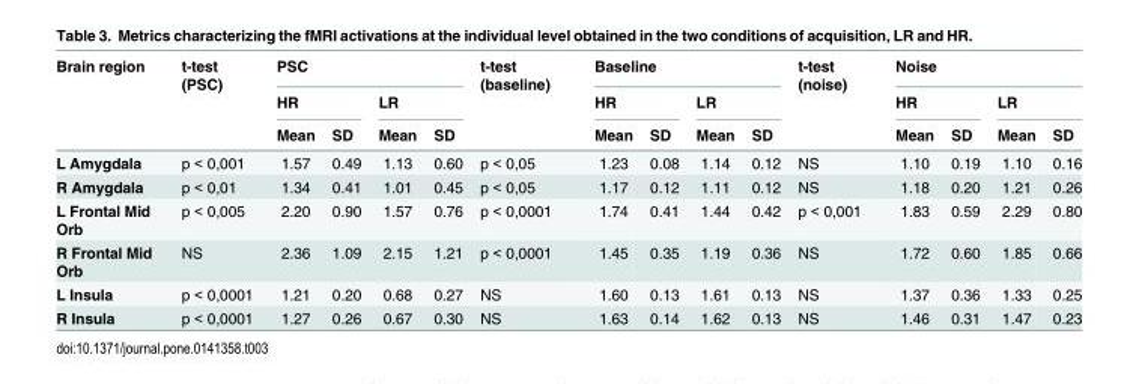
<table><thead><tr><td rowspan="3">Brain region</td><td rowspan="3">t-test (PSC)</td><td colspan="4">PSC</td><td rowspan="3">t-test (baseline)</td><td colspan="4">Baseline</td><td rowspan="3">t-test (noise)</td><td colspan="4">Noise</td></tr><tr><td colspan="2">HR</td><td colspan="2">LR</td><td colspan="2">HR</td><td colspan="2">LR</td><td colspan="2">HR</td><td colspan="2">LR</td></tr><tr><td>Mean</td><td>SD</td><td>Mean</td><td>SD</td><td>Mean</td><td>SD</td><td>Mean</td><td>SD</td><td>Mean</td><td>SD</td><td>Mean</td><td>SD</td></tr></thead><tbody><tr><td>L Amygdala</td><td>p &lt; 0,001</td><td>1.57</td><td>0.49</td><td>1.13</td><td>0.60</td><td>p &lt; 0,05</td><td>1.23</td><td>0.08</td><td>1.14</td><td>0.12</td><td>NS</td><td>1.10</td><td>0.19</td><td>1.10</td><td>0.16</td></tr><tr><td>R Amygdala</td><td>p &lt; 0,01</td><td>1.34</td><td>0.41</td><td>1.01</td><td>0.45</td><td>p &lt; 0,05</td><td>1.17</td><td>0.12</td><td>1.11</td><td>0.12</td><td>NS</td><td>1.18</td><td>0.20</td><td>1.21</td><td>0.26</td></tr><tr><td>L Frontal Mid Orb</td><td>p &lt; 0,005</td><td>2.20</td><td>0.90</td><td>1.57</td><td>0.76</td><td>p &lt; 0,0001</td><td>1.74</td><td>0.41</td><td>1.44</td><td>0.42</td><td>p &lt; 0,001</td><td>1.83</td><td>0.59</td><td>2.29</td><td>0.80</td></tr><tr><td>R Frontal Mid Orb</td><td>NS</td><td>2.36</td><td>1.09</td><td>2.15</td><td>1.21</td><td>p &lt; 0,0001</td><td>1.45</td><td>0.35</td><td>1.19</td><td>0.36</td><td>NS</td><td>1.72</td><td>0.60</td><td>1.85</td><td>0.66</td></tr><tr><td>L Insula</td><td>p &lt; 0,0001</td><td>1.21</td><td>0.20</td><td>0.68</td><td>0.27</td><td>NS</td><td>1.60</td><td>0.13</td><td>1.61</td><td>0.13</td><td>NS</td><td>1.37</td><td>0.36</td><td>1.33</td><td>0.25</td></tr><tr><td>R Insula</td><td>p &lt; 0,0001</td><td>1.27</td><td>0.26</td><td>0.67</td><td>0.30</td><td>NS</td><td>1.63</td><td>0.14</td><td>1.62</td><td>0.13</td><td>NS</td><td>1.46</td><td>0.31</td><td>1.47</td><td>0.23</td></tr></tbody></table>